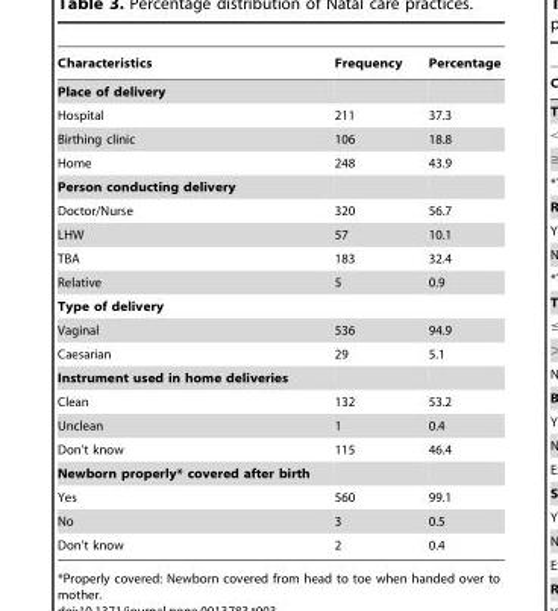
<table><thead><tr><td>Characteristics</td><td>Frequency</td><td>Percentage</td></tr></thead><tbody><tr><td colspan="3">Place of delivery</td></tr><tr><td>Hospital</td><td>211</td><td>37.3</td></tr><tr><td>Birthing clinic</td><td>106</td><td>18.8</td></tr><tr><td>Home</td><td>248</td><td>43.9</td></tr><tr><td colspan="3">Person conducting delivery</td></tr><tr><td>Doctor/Nurse</td><td>320</td><td>56.7</td></tr><tr><td>LHW</td><td>57</td><td>10.1</td></tr><tr><td>TBA</td><td>183</td><td>32.4</td></tr><tr><td>Relative</td><td>5</td><td>0.9</td></tr><tr><td colspan="3">Type of delivery</td></tr><tr><td>Vaginal</td><td>536</td><td>94.9</td></tr><tr><td>Caesarian</td><td>29</td><td>5.1</td></tr><tr><td colspan="3">Instrument used in home deliveries</td></tr><tr><td>Clean</td><td>132</td><td>53.2</td></tr><tr><td>Unclean</td><td>1</td><td>0.4</td></tr><tr><td>Don’t know</td><td>115</td><td>46.4</td></tr><tr><td colspan="3">Newborn properly* covered after birth</td></tr><tr><td>Yes</td><td>560</td><td>99.1</td></tr><tr><td>No</td><td>3</td><td>0.5</td></tr><tr><td>Don’t know</td><td>2</td><td>0.4</td></tr></tbody></table>